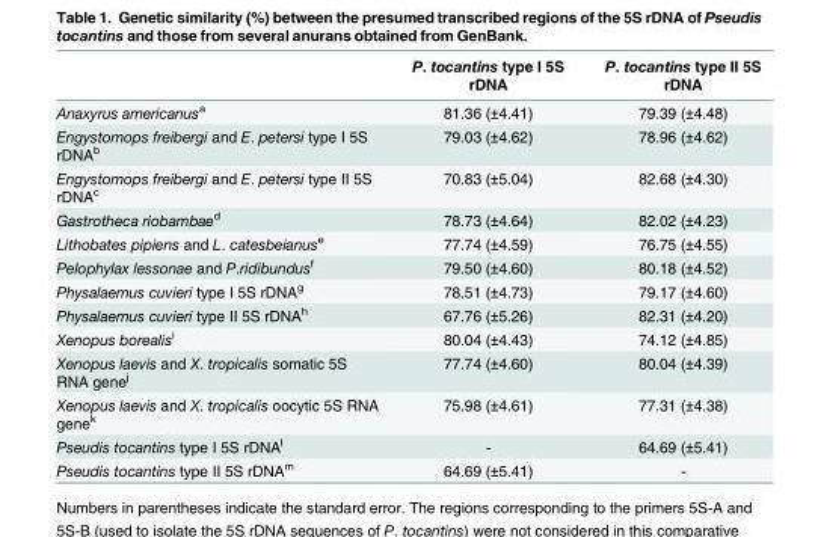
<table><thead><tr><td></td><td>P. tocantins type I 5S rDNA</td><td>P. tocantins type II 5S rDNA</td></tr></thead><tbody><tr><td>Anaxyrus americanus<sup>a</sup></td><td>81.36 (±4.41)</td><td>79.39 (±4.48)</td></tr><tr><td>Engystomops freibergi and E. petersi type I 5S rDNA<sup>b</sup></td><td>79.03 (±4.62)</td><td>78.96 (±4.62)</td></tr><tr><td>Engystomops freibergi and E. petersi type II 5S rDNA<sup>c</sup></td><td>70.83 (±5.04)</td><td>82.68 (±4.30)</td></tr><tr><td>Gastrotheca riobambae<sup>d</sup></td><td>78.73 (±4.64)</td><td>82.02 (±4.23)</td></tr><tr><td>Lithobates pipiens and L. catesbeianus<sup>e</sup></td><td>77.74 (±4.59)</td><td>76.75 (±4.55)</td></tr><tr><td>Pelophylax lessonae and P.ridibundus<sup>f</sup></td><td>79.50 (±4.60)</td><td>80.18 (±4.52)</td></tr><tr><td>Physalaemus cuvieri type I 5S rDNA<sup>g</sup></td><td>78.51 (±4.73)</td><td>79.17 (±4.60)</td></tr><tr><td>Physalaemus cuvieri type II 5S rDNA<sup>h</sup></td><td>67.76 (±5.26)</td><td>82.31 (±4.20)</td></tr><tr><td>Xenopus borealis<sup>i</sup></td><td>80.04 (±4.43)</td><td>74.12 (±4.85)</td></tr><tr><td>Xenopus laevis and X. tropicalis somatic 5S RNA gene<sup>j</sup></td><td>77.74 (±4.60)</td><td>80.04 (±4.39)</td></tr><tr><td>Xenopus laevis and X. tropicalis oocytic 5S RNA gene<sup>k</sup></td><td>75.98 (±4.61)</td><td>77.31 (±4.38)</td></tr><tr><td>Pseudis tocantins type I 5S rDNA<sup>l</sup></td><td>-</td><td>64.69 (±5.41)</td></tr><tr><td>Pseudis tocantins type II 5S rDNA<sup>m</sup></td><td>64.69 (±5.41)</td><td>-</td></tr></tbody></table>